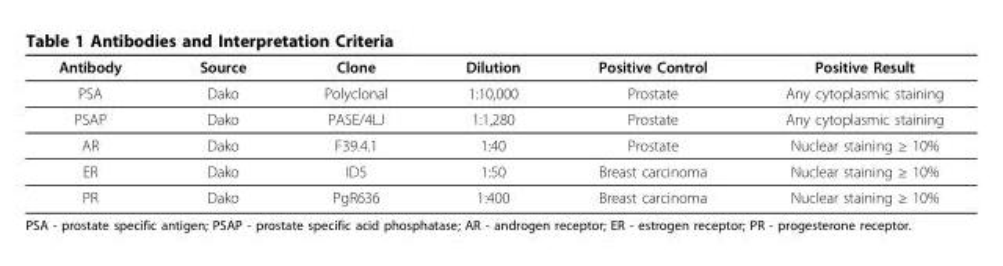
<table><thead><tr><td>Antibody</td><td>Source</td><td>Clone</td><td>Dilution</td><td>Positive Control</td><td>Positive Result</td></tr></thead><tbody><tr><td>PSA</td><td>Dako</td><td>Polyclonal</td><td>1:10,000</td><td>Prostate</td><td>Any cytoplasmic staining</td></tr><tr><td>PSAP</td><td>Dako</td><td>PASE/4LJ</td><td>1:1,280</td><td>Prostate</td><td>Any cytoplasmic staining</td></tr><tr><td>AR</td><td>Dako</td><td>F39.4.1</td><td>1:40</td><td>Prostate</td><td>Nuclear staining ≥ 10%</td></tr><tr><td>ER</td><td>Dako</td><td>ID5</td><td>1:50</td><td>Breast carcinoma</td><td>Nuclear staining ≥ 10%</td></tr><tr><td>PR</td><td>Dako</td><td>PgR636</td><td>1:400</td><td>Breast carcinoma</td><td>Nuclear staining ≥ 10%</td></tr></tbody></table>